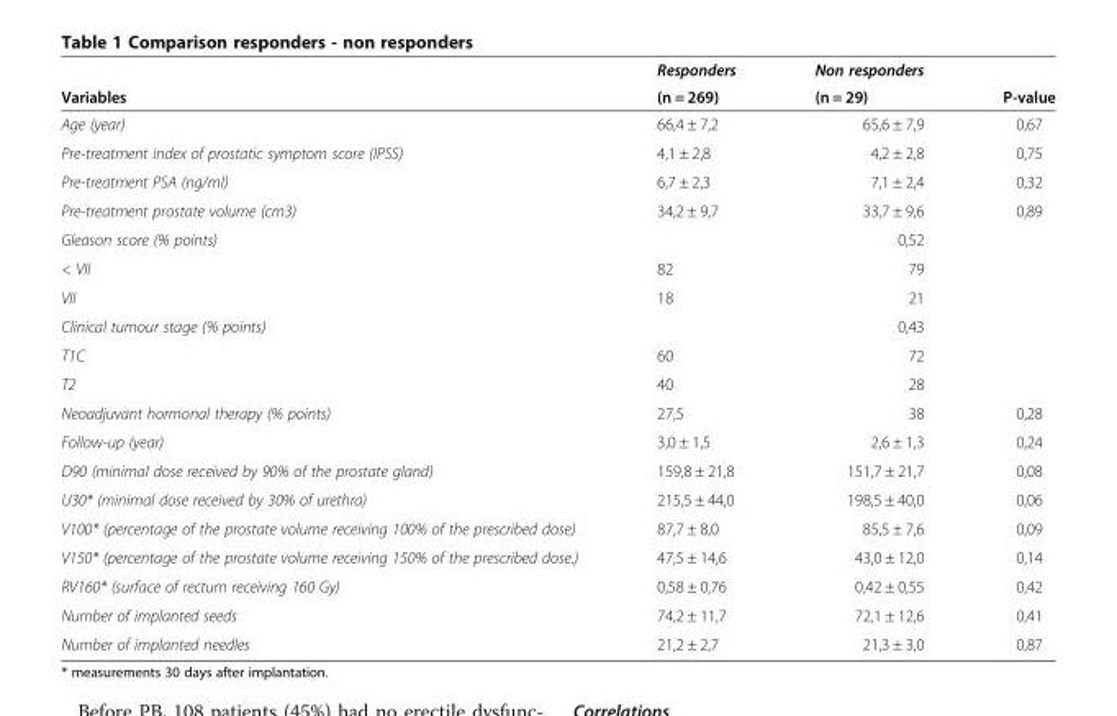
<table><thead><tr><td rowspan="2">Variables</td><td rowspan="2">Responders (n = 269)</td><td rowspan="2">Non responders (n = 29)</td><td rowspan="2">P-value</td></tr><tr></tr></thead><tbody><tr><td>Age (year)</td><td>66,4 ± 7,2</td><td>65,6 ± 7,9</td><td>0,67</td></tr><tr><td>Pre-treatment index of prostatic symptom score (IPSS)</td><td>4,1 ± 2,8</td><td>4,2 ± 2,8</td><td>0,75</td></tr><tr><td>Pre-treatment PSA (ng/ml)</td><td>6,7 ± 2,3</td><td>7,1 ± 2,4</td><td>0,32</td></tr><tr><td>Pre-treatment prostate volume (cm3)</td><td>34,2 ± 9,7</td><td>33,7 ± 9,6</td><td>0,89</td></tr><tr><td>Gleason score (% points)</td><td></td><td>0,52</td><td></td></tr><tr><td>&lt; VII</td><td>82</td><td>79</td><td></td></tr><tr><td>VII</td><td>18</td><td>21</td><td></td></tr><tr><td>Clinical tumour stage (% points)</td><td></td><td>0,43</td><td></td></tr><tr><td>T1C</td><td>60</td><td>72</td><td></td></tr><tr><td>T2</td><td>40</td><td>28</td><td></td></tr><tr><td>Neoadjuvant hormonal therapy (% points)</td><td>27,5</td><td>38</td><td>0,28</td></tr><tr><td>Follow-up (year)</td><td>3,0 ± 1,5</td><td>2,6 ± 1,3</td><td>0,24</td></tr><tr><td>D90 (minimal dose received by 90% of the prostate gland)</td><td>159,8 ± 21,8</td><td>151,7 ± 21,7</td><td>0,08</td></tr><tr><td>U30* (minimal dose received by 30% of urethra)</td><td>215,5 ± 44,0</td><td>198,5 ± 40,0</td><td>0,06</td></tr><tr><td>V100* (percentage of the prostate volume receiving 100% of the prescribed dose)</td><td>87,7 ± 8,0</td><td>85,5 ± 7,6</td><td>0,09</td></tr><tr><td>V150* (percentage of the prostate volume receiving 150% of the prescribed dose.)</td><td>47,5 ± 14,6</td><td>43,0 ± 12,0</td><td>0,14</td></tr><tr><td>RV160* (surface of rectum receiving 160 Gy)</td><td>0,58 ± 0,76</td><td>0,42 ± 0,55</td><td>0,42</td></tr><tr><td>Number of implanted seeds</td><td>74,2 ± 11,7</td><td>72,1 ± 12,6</td><td>0,41</td></tr><tr><td>Number of implanted needles</td><td>21,2 ± 2,7</td><td>21,3 ± 3,0</td><td>0,87</td></tr></tbody></table>